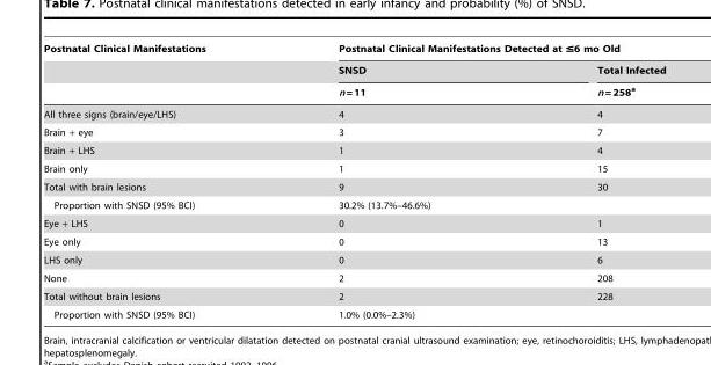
<table><thead><tr><td rowspan="3">Postnatal Clinical Manifestations</td><td colspan="2">Postnatal Clinical Manifestations Detected at ≤6 mo Old</td></tr><tr><td rowspan="2">SNSD n = 11</td><td rowspan="2">Total Infected n = 258<sup>a</sup></td></tr><tr></tr></thead><tbody><tr><td>All three signs (brain/eye/LHS)</td><td>4</td><td>4</td></tr><tr><td>Brain + eye</td><td>3</td><td>7</td></tr><tr><td>Brain + LHS</td><td>1</td><td>4</td></tr><tr><td>Brain only</td><td>1</td><td>15</td></tr><tr><td>Total with brain lesions</td><td>9</td><td>30</td></tr><tr><td>Proportion with SNSD (95% BCI)</td><td>30.2% (13.7%–46.6%)</td><td></td></tr><tr><td>Eye + LHS</td><td>0</td><td>1</td></tr><tr><td>Eye only</td><td>0</td><td>13</td></tr><tr><td>LHS only</td><td>0</td><td>6</td></tr><tr><td>None</td><td>2</td><td>208</td></tr><tr><td>Total without brain lesions</td><td>2</td><td>228</td></tr><tr><td>Proportion with SNSD (95% BCI)</td><td>1.0% (0.0%–2.3%)</td><td></td></tr></tbody></table>